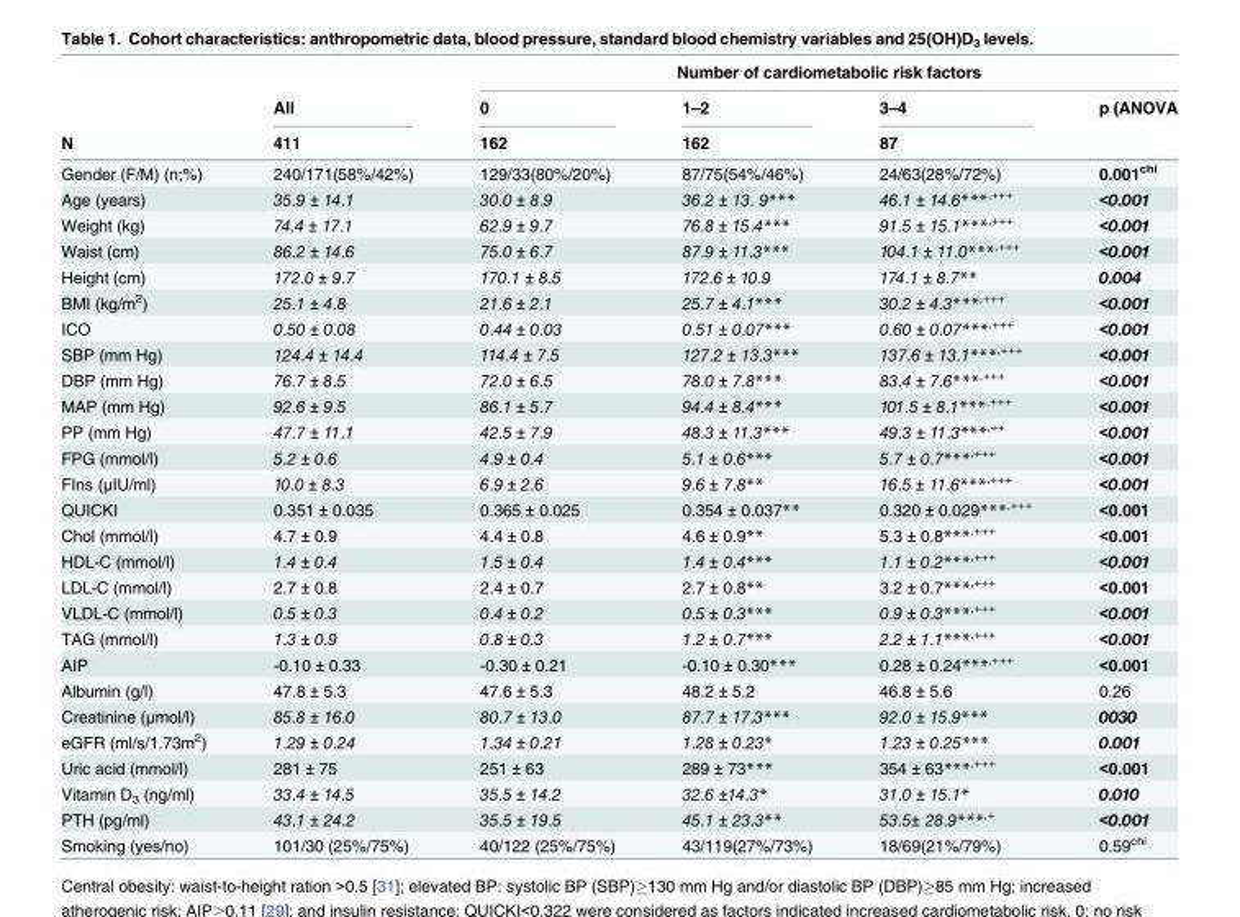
<table><thead><tr><td rowspan="3">N</td><td rowspan="3">All 411</td><td colspan="4">Number of cardiometabolic risk factors</td></tr><tr><td rowspan="2">0 162</td><td rowspan="2">1–2 162</td><td rowspan="2">3–4 87</td><td rowspan="2">p (ANOVA</td></tr><tr></tr></thead><tbody><tr><td>Gender (F/M) (n;%)</td><td>240/171(58%/42%)</td><td>129/33(80%/20%)</td><td>87/75(54%/46%)</td><td>24/63(28%/72%)</td><td>0.001<sup>chi</sup></td></tr><tr><td>Age (years)</td><td>35.9 ± 14.1</td><td>30.0 ± 8.9</td><td>36.2 ± 13. 9***</td><td>46.1 ± 14.6***<sup>,+++</sup></td><td>&lt;0.001</td></tr><tr><td>Weight (kg)</td><td>74.4 ± 17.1</td><td>62.9 ± 9.7</td><td>76.8 ± 15.4***</td><td>91.5 ± 15.1***<sup>,+++</sup></td><td>&lt;0.001</td></tr><tr><td>Waist (cm)</td><td>86.2 ± 14.6</td><td>75.0 ± 6.7</td><td>87.9 ± 11.3***</td><td>104.1 ± 11.0***<sup>,+++</sup></td><td>&lt;0.001</td></tr><tr><td>Height (cm)</td><td>172.0 ± 9.7</td><td>170.1 ± 8.5</td><td>172.6 ± 10.9</td><td>174.1 ± 8.7**</td><td>0.004</td></tr><tr><td>BMI (kg/m<sup>2</sup>)</td><td>25.1 ± 4.8</td><td>21.6 ± 2.1</td><td>25.7 ± 4.1***</td><td>30.2 ± 4.3***<sup>,+++</sup></td><td>&lt;0.001</td></tr><tr><td>ICO</td><td>0.50 ± 0.08</td><td>0.44 ± 0.03</td><td>0.51 ± 0.07***</td><td>0.60 ± 0.07***<sup>,+++</sup></td><td>&lt;0.001</td></tr><tr><td>SBP (mm Hg)</td><td>124.4 ± 14.4</td><td>114.4 ± 7.5</td><td>127.2 ± 13.3***</td><td>137.6 ± 13.1***<sup>,+++</sup></td><td>&lt;0.001</td></tr><tr><td>DBP (mm Hg)</td><td>76.7 ± 8.5</td><td>72.0 ± 6.5</td><td>78.0 ± 7.8***</td><td>83.4 ± 7.6***<sup>,+++</sup></td><td>&lt;0.001</td></tr><tr><td>MAP (mm Hg)</td><td>92.6 ± 9.5</td><td>86.1 ± 5.7</td><td>94.4 ± 8.4***</td><td>101.5 ± 8.1***<sup>,+++</sup></td><td>&lt;0.001</td></tr><tr><td>PP (mm Hg)</td><td>47.7 ± 11.1</td><td>42.5 ± 7.9</td><td>48.3 ± 11.3***</td><td>49.3 ± 11.3***<sup>,++</sup></td><td>&lt;0.001</td></tr><tr><td>FPG (mmol/l)</td><td>5.2 ± 0.6</td><td>4.9 ± 0.4</td><td>5.1 ± 0.6***</td><td>5.7 ± 0.7***<sup>,+++</sup></td><td>&lt;0.001</td></tr><tr><td>FIns (μIU/ml)</td><td>10.0 ± 8.3</td><td>6.9 ± 2.6</td><td>9.6 ± 7.8**</td><td>16.5 ± 11.6***<sup>,+++</sup></td><td>&lt;0.001</td></tr><tr><td>QUICKI</td><td>0.351 ± 0.035</td><td>0.365 ± 0.025</td><td>0.354 ± 0.037**</td><td>0.320 ± 0.029***<sup>,+++</sup></td><td>&lt;0.001</td></tr><tr><td>Chol (mmol/l)</td><td>4.7 ± 0.9</td><td>4.4 ± 0.8</td><td>4.6 ± 0.9**</td><td>5.3 ± 0.8***<sup>,+++</sup></td><td>&lt;0.001</td></tr><tr><td>HDL-C (mmol/l)</td><td>1.4 ± 0.4</td><td>1.5 ± 0.4</td><td>1.4 ± 0.4***</td><td>1.1 ± 0.2***<sup>,+++</sup></td><td>&lt;0.001</td></tr><tr><td>LDL-C (mmol/l)</td><td>2.7 ± 0.8</td><td>2.4 ± 0.7</td><td>2.7 ± 0.8**</td><td>3.2 ± 0.7***<sup>,+++</sup></td><td>&lt;0.001</td></tr><tr><td>VLDL-C (mmol/l)</td><td>0.5 ± 0.3</td><td>0.4 ± 0.2</td><td>0.5 ± 0.3***</td><td>0.9 ± 0.3***<sup>,+++</sup></td><td>&lt;0.001</td></tr><tr><td>TAG (mmol/l)</td><td>1.3 ± 0.9</td><td>0.8 ± 0.3</td><td>1.2 ± 0.7***</td><td>2.2 ± 1.1***<sup>,+++</sup></td><td>&lt;0.001</td></tr><tr><td>AIP</td><td>-0.10 ± 0.33</td><td>-0.30 ± 0.21</td><td>-0.10 ± 0.30***</td><td>0.28 ± 0.24***<sup>,+++</sup></td><td>&lt;0.001</td></tr><tr><td>Albumin (g/l)</td><td>47.8 ± 5.3</td><td>47.6 ± 5.3</td><td>48.2 ± 5.2</td><td>46.8 ± 5.6</td><td>0.26</td></tr><tr><td>Creatinine (μmol/l)</td><td>85.8 ± 16.0</td><td>80.7 ± 13.0</td><td>87.7 ± 17.3***</td><td>92.0 ± 15.9***</td><td>0030</td></tr><tr><td>eGFR (ml/s/1.73m<sup>2</sup>)</td><td>1.29 ± 0.24</td><td>1.34 ± 0.21</td><td>1.28 ± 0.23*</td><td>1.23 ± 0.25***</td><td>0.001</td></tr><tr><td>Uric acid (mmol/l)</td><td>281 ± 75</td><td>251 ± 63</td><td>289 ± 73***</td><td>354 ± 63***<sup>,+++</sup></td><td>&lt;0.001</td></tr><tr><td>Vitamin D<sub>3</sub> (ng/ml)</td><td>33.4 ± 14.5</td><td>35.5 ± 14.2</td><td>32.6 ±14.3*</td><td>31.0 ± 15.1*</td><td>0.010</td></tr><tr><td>PTH (pg/ml)</td><td>43.1 ± 24.2</td><td>35.5 ± 19.5</td><td>45.1 ± 23.3**</td><td>53.5± 28.9***<sup>,+</sup></td><td>&lt;0.001</td></tr><tr><td>Smoking (yes/no)</td><td>101/30 (25%/75%)</td><td>40/122 (25%/75%)</td><td>43/119(27%/73%)</td><td>18/69(21%/79%)</td><td>0.59<sup>chi</sup></td></tr></tbody></table>